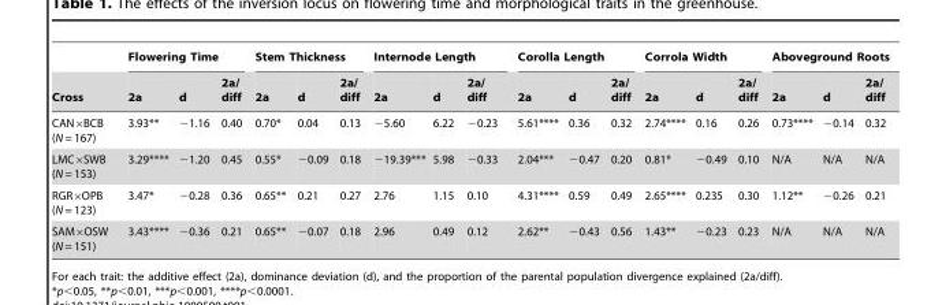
<table><thead><tr><td rowspan="2">Cross</td><td colspan="3">Flowering Time</td><td colspan="3">Stem Thickness</td><td colspan="3">Internode Length</td><td colspan="3">Corolla Length</td><td colspan="3">Corrola Width</td><td colspan="3">Aboveground Roots</td></tr><tr><td>2a</td><td>d</td><td>2a/ diff</td><td>2a</td><td>d</td><td>2a/ diff</td><td>2a</td><td>d</td><td>2a/ diff</td><td>2a</td><td>d</td><td>2a/ diff</td><td>2a</td><td>d</td><td>2a/ diff</td><td>2a</td><td>d</td><td>2a/ diff</td></tr></thead><tbody><tr><td>CAN×BCB (N = 167)</td><td>3.93**</td><td>−1.16</td><td>0.40</td><td>0.70*</td><td>0.04</td><td>0.13</td><td>−5.60</td><td>6.22</td><td>−0.23</td><td>5.61****</td><td>0.36</td><td>0.32</td><td>2.74****</td><td>0.16</td><td>0.26</td><td>0.73****</td><td>−0.14</td><td>0.32</td></tr><tr><td>LMC×SWB (N = 153)</td><td>3.29****</td><td>−1.20</td><td>0.45</td><td>0.55*</td><td>−0.09</td><td>0.18</td><td>−19.39***</td><td>5.98</td><td>−0.33</td><td>2.04***</td><td>−0.47</td><td>0.20</td><td>0.81*</td><td>−0.49</td><td>0.10</td><td>N/A</td><td>N/A</td><td>N/A</td></tr><tr><td>RGR×OPB (N = 123)</td><td>3.47*</td><td>−0.28</td><td>0.36</td><td>0.65**</td><td>0.21</td><td>0.27</td><td>2.76</td><td>1.15</td><td>0.10</td><td>4.31****</td><td>0.59</td><td>0.49</td><td>2.65****</td><td>0.235</td><td>0.30</td><td>1.12**</td><td>−0.26</td><td>0.21</td></tr><tr><td>SAM×OSW (N = 151)</td><td>3.43****</td><td>−0.36</td><td>0.21</td><td>0.65**</td><td>−0.07</td><td>0.18</td><td>2.96</td><td>0.49</td><td>0.12</td><td>2.62**</td><td>−0.43</td><td>0.56</td><td>1.43**</td><td>−0.23</td><td>0.23</td><td>N/A</td><td>N/A</td><td>N/A</td></tr></tbody></table>